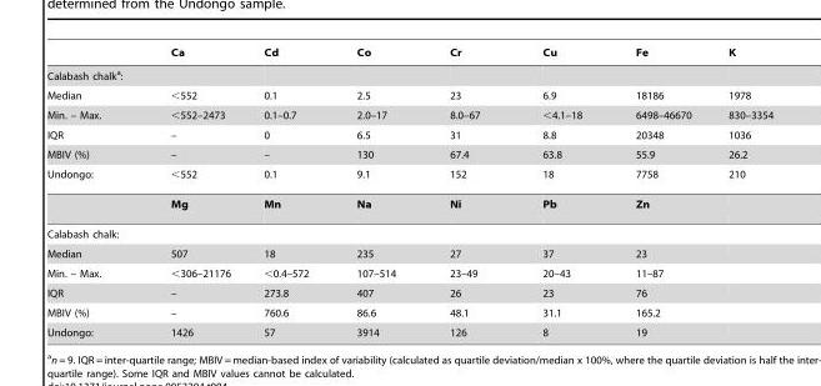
<table><thead><tr><td></td><td>Ca</td><td>Cd</td><td>Co</td><td>Cr</td><td>Cu</td><td>Fe</td><td>K</td></tr></thead><tbody><tr><td colspan="8">Calabash chalk<sup>a</sup>:</td></tr><tr><td>Median</td><td>&lt;552</td><td>0.1</td><td>2.5</td><td>23</td><td>6.9</td><td>18186</td><td>1978</td></tr><tr><td>Min. – Max.</td><td>&lt;552–2473</td><td>0.1–0.7</td><td>2.0–17</td><td>8.0–67</td><td>&lt;4.1–18</td><td>6498–46670</td><td>830–3354</td></tr><tr><td>IQR</td><td>–</td><td>0</td><td>6.5</td><td>31</td><td>8.8</td><td>20348</td><td>1036</td></tr><tr><td>MBIV (%)</td><td>–</td><td>–</td><td>130</td><td>67.4</td><td>63.8</td><td>55.9</td><td>26.2</td></tr><tr><td rowspan="2">Undongo:</td><td>&lt;552</td><td>0.1</td><td>9.1</td><td>152</td><td>18</td><td>7758</td><td>210</td></tr><tr><td>Mg</td><td>Mn</td><td>Na</td><td>Ni</td><td>Pb</td><td>Zn</td><td></td></tr><tr><td colspan="8">Calabash chalk:</td></tr><tr><td>Median</td><td>507</td><td>18</td><td>235</td><td>27</td><td>37</td><td>23</td><td></td></tr><tr><td>Min. – Max.</td><td>&lt;306–21176</td><td>&lt;0.4–572</td><td>107–514</td><td>23–49</td><td>20–43</td><td>11–87</td><td></td></tr><tr><td>IQR</td><td>–</td><td>273.8</td><td>407</td><td>26</td><td>23</td><td>76</td><td></td></tr><tr><td>MBIV (%)</td><td>–</td><td>760.6</td><td>86.6</td><td>48.1</td><td>31.1</td><td>165.2</td><td></td></tr><tr><td>Undongo:</td><td>1426</td><td>57</td><td>3914</td><td>126</td><td>8</td><td>19</td><td></td></tr></tbody></table>